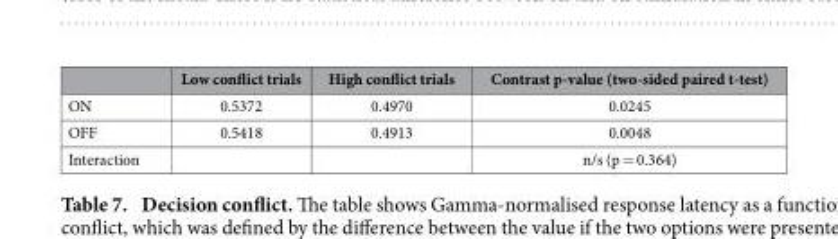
<table><thead><tr><td></td><td>Low conflict trials</td><td>High conflict trials</td><td>Contrast p-value (two-sided paired t-test)</td></tr></thead><tbody><tr><td>ON</td><td>0.5372</td><td>0.4970</td><td>0.0245</td></tr><tr><td>OFF</td><td>0.5418</td><td>0.4913</td><td>0.0048</td></tr><tr><td>Interaction</td><td></td><td></td><td>n/s (p = 0.364)</td></tr></tbody></table>